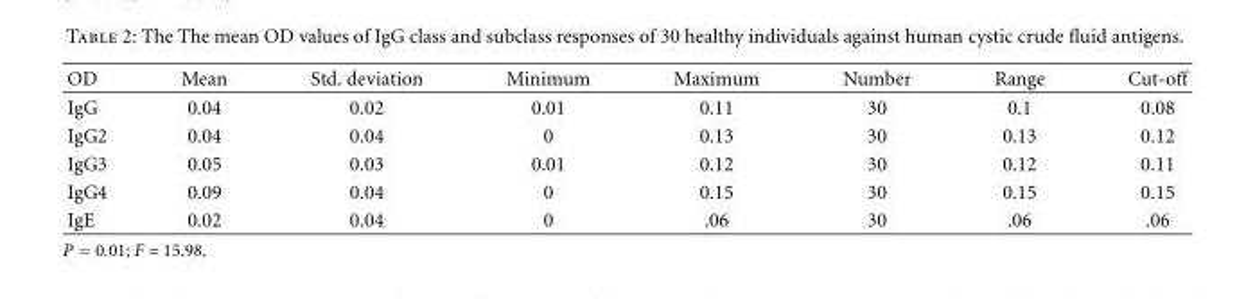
<table><thead><tr><td>OD</td><td>Mean</td><td>Std. deviation</td><td>Minimum</td><td>Maximum</td><td>Number</td><td>Range</td><td>Cut-off</td></tr></thead><tbody><tr><td>IgG</td><td>0.04</td><td>0.02</td><td>0.01</td><td>0.11</td><td>30</td><td>0.1</td><td>0.08</td></tr><tr><td>IgG2</td><td>0.04</td><td>0.04</td><td>0</td><td>0.13</td><td>30</td><td>0.13</td><td>0.12</td></tr><tr><td>IgG3</td><td>0.05</td><td>0.03</td><td>0.01</td><td>0.12</td><td>30</td><td>0.12</td><td>0.11</td></tr><tr><td>IgG4</td><td>0.09</td><td>0.04</td><td>0</td><td>0.15</td><td>30</td><td>0.15</td><td>0.15</td></tr><tr><td>IgE</td><td>0.02</td><td>0.04</td><td>0</td><td>.06</td><td>30</td><td>.06</td><td>.06</td></tr></tbody></table>